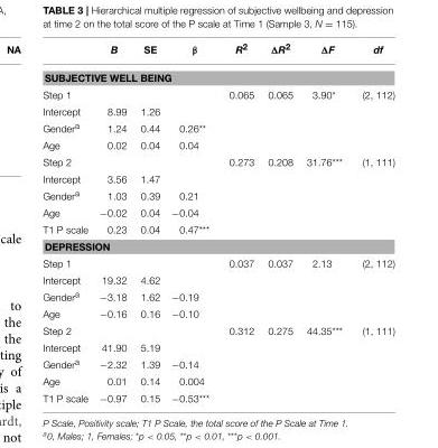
<table><thead><tr><td></td><td>B</td><td>SE</td><td>β</td><td>R<sup>2</sup></td><td>ΔR<sup>2</sup></td><td>ΔF</td><td>df</td></tr></thead><tbody><tr><td colspan="8">SUBJECTIVE WELL BEING</td></tr><tr><td>Step 1</td><td></td><td></td><td></td><td>0.065</td><td>0.065</td><td>3.90*</td><td>(2, 112)</td></tr><tr><td>Intercept</td><td>8.99</td><td>1.26</td><td></td><td></td><td></td><td></td><td></td></tr><tr><td>Gender<sup>a</sup></td><td>1.24</td><td>0.44</td><td>0.26**</td><td></td><td></td><td></td><td></td></tr><tr><td>Age</td><td>0.02</td><td>0.04</td><td>0.04</td><td></td><td></td><td></td><td></td></tr><tr><td>Step 2</td><td></td><td></td><td></td><td>0.273</td><td>0.208</td><td>31.76***</td><td>(1, 111)</td></tr><tr><td>Intercept</td><td>3.56</td><td>1.47</td><td></td><td></td><td></td><td></td><td></td></tr><tr><td>Gender<sup>a</sup></td><td>1.03</td><td>0.39</td><td>0.21</td><td></td><td></td><td></td><td></td></tr><tr><td>Age</td><td>−0.02</td><td>0.04</td><td>−0.04</td><td></td><td></td><td></td><td></td></tr><tr><td>T1 P scale</td><td>0.23</td><td>0.04</td><td>0.47***</td><td></td><td></td><td></td><td></td></tr><tr><td colspan="8">DEPRESSION</td></tr><tr><td>Step 1</td><td></td><td></td><td></td><td>0.037</td><td>0.037</td><td>2.13</td><td>(2, 112)</td></tr><tr><td>Intercept</td><td>19.32</td><td>4.62</td><td></td><td></td><td></td><td></td><td></td></tr><tr><td>Gender<sup>a</sup></td><td>−3.18</td><td>1.62</td><td>−0.19</td><td></td><td></td><td></td><td></td></tr><tr><td>Age</td><td>−0.16</td><td>0.16</td><td>−0.10</td><td></td><td></td><td></td><td></td></tr><tr><td>Step 2</td><td></td><td></td><td></td><td>0.312</td><td>0.275</td><td>44.35***</td><td>(1, 111)</td></tr><tr><td>Intercept</td><td>41.90</td><td>5.19</td><td></td><td></td><td></td><td></td><td></td></tr><tr><td>Gender<sup>a</sup></td><td>−2.32</td><td>1.39</td><td>−0.14</td><td></td><td></td><td></td><td></td></tr><tr><td>Age</td><td>0.01</td><td>0.14</td><td>0.004</td><td></td><td></td><td></td><td></td></tr><tr><td>T1 P scale</td><td>−0.97</td><td>0.15</td><td>−0.53***</td><td></td><td></td><td></td><td></td></tr></tbody></table>